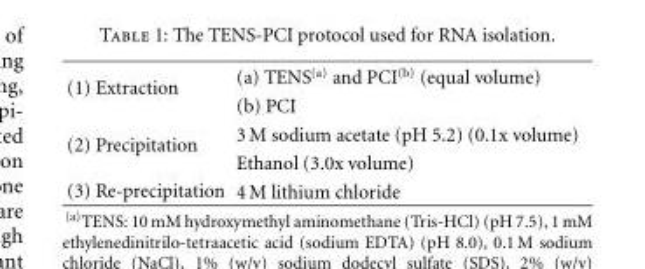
<table><tbody><tr><td rowspan="2">(1) Extraction</td><td>(a) TENS<sup>(a)</sup> and PCI<sup>(b)</sup> (equal volume)</td></tr><tr><td>(b) PCI</td></tr><tr><td rowspan="2">(2) Precipitation</td><td>3 M sodium acetate (pH 5.2) (0.1x volume)</td></tr><tr><td>Ethanol (3.0x volume)</td></tr><tr><td>(3) Re-precipitation</td><td>4 M lithium chloride</td></tr></tbody></table>